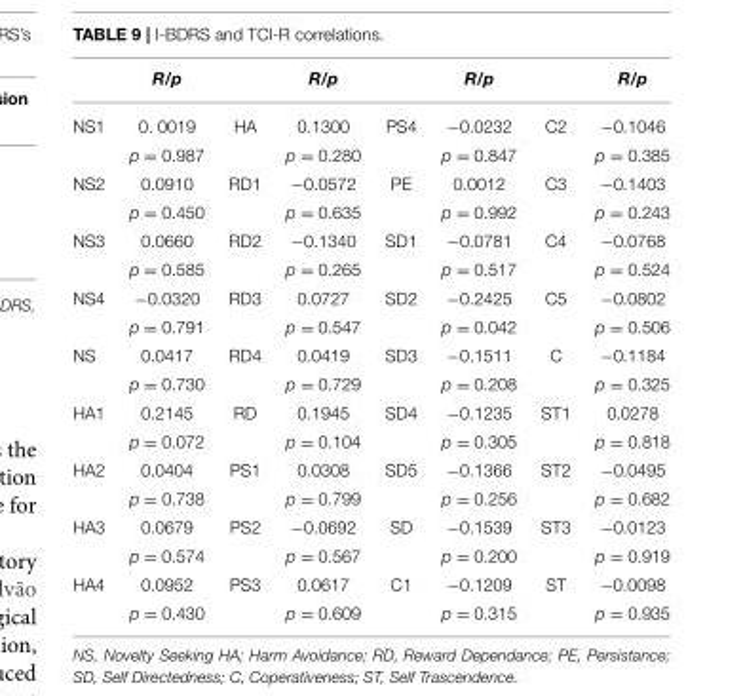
<table><thead><tr><td></td><td>R/p</td><td></td><td>R/p</td><td></td><td>R/p</td><td></td><td>R/p</td></tr></thead><tbody><tr><td rowspan="2">NS1</td><td>0. 0019</td><td>HA</td><td>0.1300</td><td>PS4</td><td>−0.0232</td><td>C2</td><td>−0.1046</td></tr><tr><td>p = 0.987</td><td></td><td>p = 0.280</td><td></td><td>p = 0.847</td><td></td><td>p = 0.385</td></tr><tr><td rowspan="2">NS2</td><td>0.0910</td><td>RD1</td><td>−0.0572</td><td>PE</td><td>0.0012</td><td>C3</td><td>−0.1403</td></tr><tr><td>p = 0.450</td><td></td><td>p = 0.635</td><td></td><td>p = 0.992</td><td></td><td>p = 0.243</td></tr><tr><td rowspan="2">NS3</td><td>0.0660</td><td>RD2</td><td>−0.1340</td><td>SD1</td><td>−0.0781</td><td>C4</td><td>−0.0768</td></tr><tr><td>p = 0.585</td><td></td><td>p = 0.265</td><td></td><td>p = 0.517</td><td></td><td>p = 0.524</td></tr><tr><td rowspan="2">NS4</td><td>−0.0320</td><td>RD3</td><td>0.0727</td><td>SD2</td><td>−0.2425</td><td>C5</td><td>−0.0802</td></tr><tr><td>p = 0.791</td><td></td><td>p = 0.547</td><td></td><td>p = 0.042</td><td></td><td>p = 0.506</td></tr><tr><td rowspan="2">NS</td><td>0.0417</td><td>RD4</td><td>0.0419</td><td>SD3</td><td>−0.1511</td><td>C</td><td>−0.1184</td></tr><tr><td>p = 0.730</td><td></td><td>p = 0.729</td><td></td><td>p = 0.208</td><td></td><td>p = 0.325</td></tr><tr><td rowspan="2">HA1</td><td>0.2145</td><td>RD</td><td>0.1945</td><td>SD4</td><td>−0.1235</td><td>ST1</td><td>0.0278</td></tr><tr><td>p = 0.072</td><td></td><td>p = 0.104</td><td></td><td>p = 0.305</td><td></td><td>p = 0.818</td></tr><tr><td rowspan="2">HA2</td><td>0.0404</td><td>PS1</td><td>0.0308</td><td>SD5</td><td>−0.1366</td><td>ST2</td><td>−0.0495</td></tr><tr><td>p = 0.738</td><td></td><td>p = 0.799</td><td></td><td>p = 0.256</td><td></td><td>p = 0.682</td></tr><tr><td rowspan="2">HA3</td><td>0.0679</td><td>PS2</td><td>−0.0692</td><td>SD</td><td>−0.1539</td><td>ST3</td><td>−0.0123</td></tr><tr><td>p = 0.574</td><td></td><td>p = 0.567</td><td></td><td>p = 0.200</td><td></td><td>p = 0.919</td></tr><tr><td rowspan="2">HA4</td><td>0.0952</td><td>PS3</td><td>0.0617</td><td>C1</td><td>−0.1209</td><td>ST</td><td>−0.0098</td></tr><tr><td>p = 0.430</td><td></td><td>p = 0.609</td><td></td><td>p = 0.315</td><td></td><td>p = 0.935</td></tr></tbody></table>